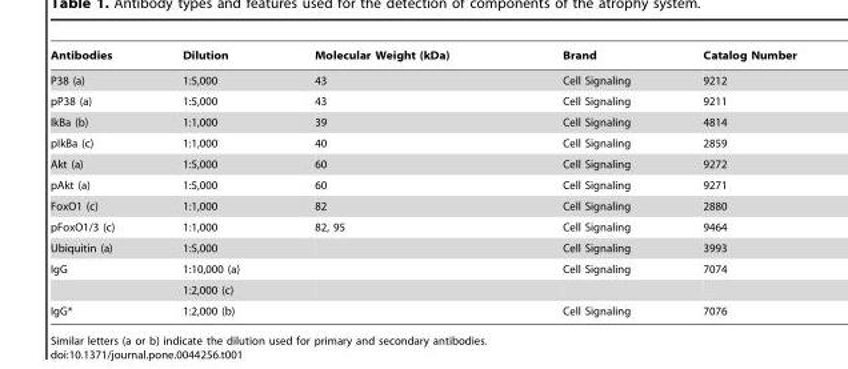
<table><thead><tr><td>Antibodies</td><td>Dilution</td><td>Molecular Weight (kDa)</td><td>Brand</td><td>Catalog Number</td></tr></thead><tbody><tr><td>P38 (a)</td><td>1:5,000</td><td>43</td><td>Cell Signaling</td><td>9212</td></tr><tr><td>pP38 (a)</td><td>1:5,000</td><td>43</td><td>Cell Signaling</td><td>9211</td></tr><tr><td>IkBa (b)</td><td>1:1,000</td><td>39</td><td>Cell Signaling</td><td>4814</td></tr><tr><td>pIkBa (c)</td><td>1:1,000</td><td>40</td><td>Cell Signaling</td><td>2859</td></tr><tr><td>Akt (a)</td><td>1:5,000</td><td>60</td><td>Cell Signaling</td><td>9272</td></tr><tr><td>pAkt (a)</td><td>1:5,000</td><td>60</td><td>Cell Signaling</td><td>9271</td></tr><tr><td>FoxO1 (c)</td><td>1:1,000</td><td>82</td><td>Cell Signaling</td><td>2880</td></tr><tr><td>pFoxO1/3 (c)</td><td>1:1,000</td><td>82, 95</td><td>Cell Signaling</td><td>9464</td></tr><tr><td>Ubiquitin (a)</td><td>1:5,000</td><td></td><td>Cell Signaling</td><td>3993</td></tr><tr><td rowspan="2">IgG</td><td>1:10,000 (a)</td><td></td><td>Cell Signaling</td><td>7074</td></tr><tr><td>1:2,000 (c)</td><td></td><td></td><td></td></tr><tr><td>IgG*</td><td>1:2,000 (b)</td><td></td><td>Cell Signaling</td><td>7076</td></tr></tbody></table>